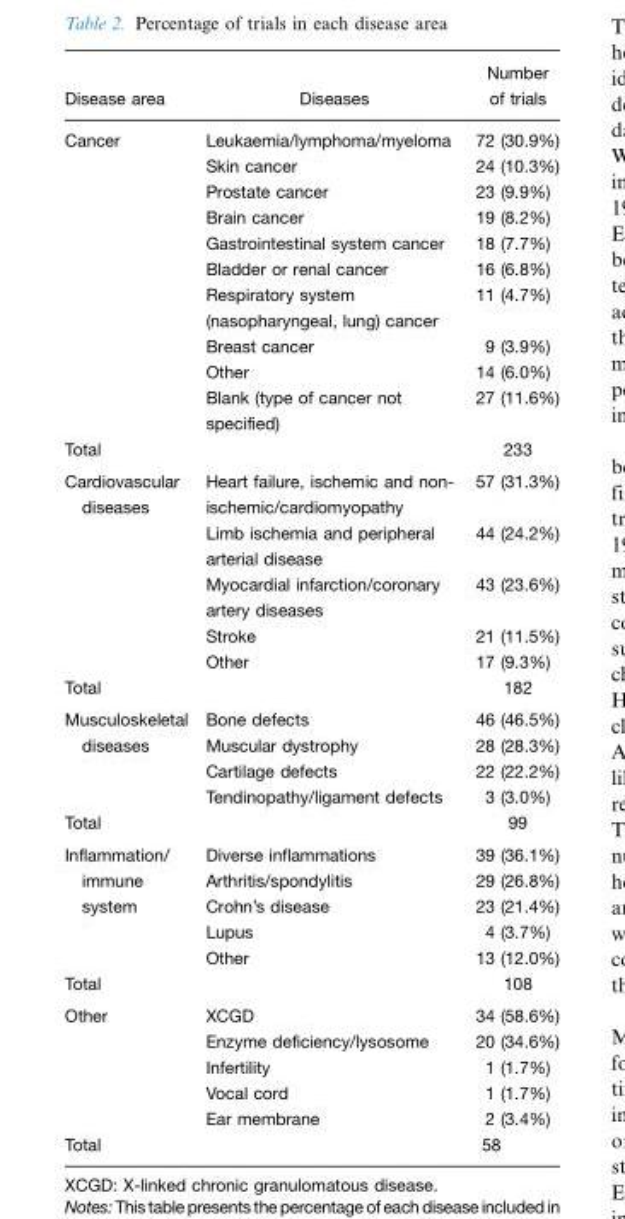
<table><thead><tr><td>Disease area</td><td>Diseases</td><td>Number of trials</td></tr></thead><tbody><tr><td rowspan="10">Cancer</td><td>Leukaemia/lymphoma/myeloma</td><td>72 (30.9%)</td></tr><tr><td>Skin cancer</td><td>24 (10.3%)</td></tr><tr><td>Prostate cancer</td><td>23 (9.9%)</td></tr><tr><td>Brain cancer</td><td>19 (8.2%)</td></tr><tr><td>Gastrointestinal system cancer</td><td>18 (7.7%)</td></tr><tr><td>Bladder or renal cancer</td><td>16 (6.8%)</td></tr><tr><td>Respiratory system (nasopharyngeal, lung) cancer</td><td>11 (4.7%)</td></tr><tr><td>Breast cancer</td><td>9 (3.9%)</td></tr><tr><td>Other</td><td>14 (6.0%)</td></tr><tr><td>Blank (type of cancer not specified)</td><td>27 (11.6%)</td></tr><tr><td>Total</td><td></td><td>233</td></tr><tr><td rowspan="5">Cardiovascular diseases</td><td>Heart failure, ischemic and non- ischemic/cardiomyopathy</td><td>57 (31.3%)</td></tr><tr><td>Limb ischemia and peripheral arterial disease</td><td>44 (24.2%)</td></tr><tr><td>Myocardial infarction/coronary artery diseases</td><td>43 (23.6%)</td></tr><tr><td>Stroke</td><td>21 (11.5%)</td></tr><tr><td>Other</td><td>17 (9.3%)</td></tr><tr><td>Total</td><td></td><td>182</td></tr><tr><td>Musculoskeletal</td><td>Bone defects</td><td>46 (46.5%)</td></tr><tr><td rowspan="3">diseases</td><td>Muscular dystrophy</td><td>28 (28.3%)</td></tr><tr><td>Cartilage defects</td><td>22 (22.2%)</td></tr><tr><td>Tendinopathy/ligament defects</td><td>3 (3.0%)</td></tr><tr><td>Total</td><td></td><td>99</td></tr><tr><td>Inflammation/</td><td>Diverse inflammations</td><td>39 (36.1%)</td></tr><tr><td>immune</td><td>Arthritis/spondylitis</td><td>29 (26.8%)</td></tr><tr><td rowspan="3">system</td><td>Crohn’s disease</td><td>23 (21.4%)</td></tr><tr><td>Lupus</td><td>4 (3.7%)</td></tr><tr><td>Other</td><td>13 (12.0%)</td></tr><tr><td>Total</td><td></td><td>108</td></tr><tr><td rowspan="5">Other</td><td>XCGD</td><td>34 (58.6%)</td></tr><tr><td>Enzyme deficiency/lysosome</td><td>20 (34.6%)</td></tr><tr><td>Infertility</td><td>1 (1.7%)</td></tr><tr><td>Vocal cord</td><td>1 (1.7%)</td></tr><tr><td>Ear membrane</td><td>2 (3.4%)</td></tr><tr><td>Total</td><td></td><td>58</td></tr></tbody></table>